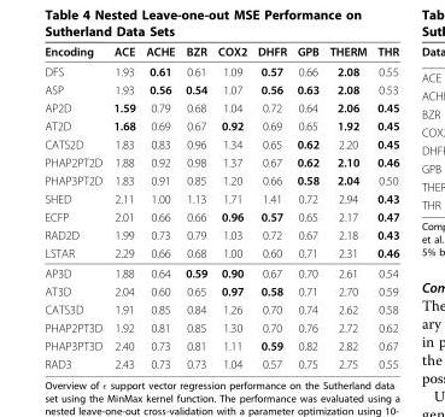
<table><thead><tr><td>Encoding</td><td>ACE</td><td>ACHE</td><td>BZR</td><td>COX2</td><td>DHFR</td><td>GPB</td><td>THERM</td><td>THR</td></tr></thead><tbody><tr><td>DFS</td><td>1.93</td><td>0.61</td><td>0.61</td><td>1.09</td><td>0.57</td><td>0.66</td><td>2.08</td><td>0.55</td></tr><tr><td>ASP</td><td>1.93</td><td>0.56</td><td>0.54</td><td>1.07</td><td>0.56</td><td>0.63</td><td>2.08</td><td>0.53</td></tr><tr><td>AP2D</td><td>1.59</td><td>0.79</td><td>0.68</td><td>1.04</td><td>0.72</td><td>0.64</td><td>2.06</td><td>0.45</td></tr><tr><td>AT2D</td><td>1.68</td><td>0.69</td><td>0.67</td><td>0.92</td><td>0.69</td><td>0.65</td><td>1.92</td><td>0.45</td></tr><tr><td>CATS2D</td><td>1.83</td><td>0.83</td><td>0.96</td><td>1.34</td><td>0.65</td><td>0.62</td><td>2.20</td><td>0.45</td></tr><tr><td>PHAP2PT2D</td><td>1.88</td><td>0.92</td><td>0.98</td><td>1.37</td><td>0.67</td><td>0.62</td><td>2.10</td><td>0.46</td></tr><tr><td>PHAP3PT2D</td><td>1.83</td><td>0.91</td><td>0.85</td><td>1.20</td><td>0.66</td><td>0.58</td><td>2.04</td><td>0.50</td></tr><tr><td>SHED</td><td>2.11</td><td>1.00</td><td>1.13</td><td>1.71</td><td>1.41</td><td>0.72</td><td>2.94</td><td>0.43</td></tr><tr><td>ECFP</td><td>2.01</td><td>0.66</td><td>0.66</td><td>0.96</td><td>0.57</td><td>0.65</td><td>2.17</td><td>0.47</td></tr><tr><td>RAD2D</td><td>1.99</td><td>0.73</td><td>0.79</td><td>1.03</td><td>0.72</td><td>0.67</td><td>2.18</td><td>0.43</td></tr><tr><td>LSTAR</td><td>2.29</td><td>0.66</td><td>0.68</td><td>1.00</td><td>0.60</td><td>0.71</td><td>2.31</td><td>0.46</td></tr><tr><td>AP3D</td><td>1.88</td><td>0.64</td><td>0.59</td><td>0.90</td><td>0.67</td><td>0.70</td><td>2.61</td><td>0.54</td></tr><tr><td>AT3D</td><td>2.04</td><td>0.60</td><td>0.65</td><td>0.97</td><td>0.58</td><td>0.71</td><td>2.70</td><td>0.59</td></tr><tr><td>CATS3D</td><td>1.91</td><td>0.85</td><td>0.84</td><td>1.26</td><td>0.70</td><td>0.74</td><td>2.62</td><td>0.58</td></tr><tr><td>PHAP2PT3D</td><td>1.92</td><td>0.81</td><td>0.85</td><td>1.30</td><td>0.70</td><td>0.76</td><td>2.72</td><td>0.62</td></tr><tr><td>PHAP3PT3D</td><td>2.40</td><td>0.73</td><td>0.81</td><td>1.11</td><td>0.59</td><td>0.82</td><td>2.82</td><td>0.67</td></tr><tr><td>RAD3</td><td>2.43</td><td>0.73</td><td>0.73</td><td>1.04</td><td>0.57</td><td>0.75</td><td>2.75</td><td>0.55</td></tr></tbody></table>